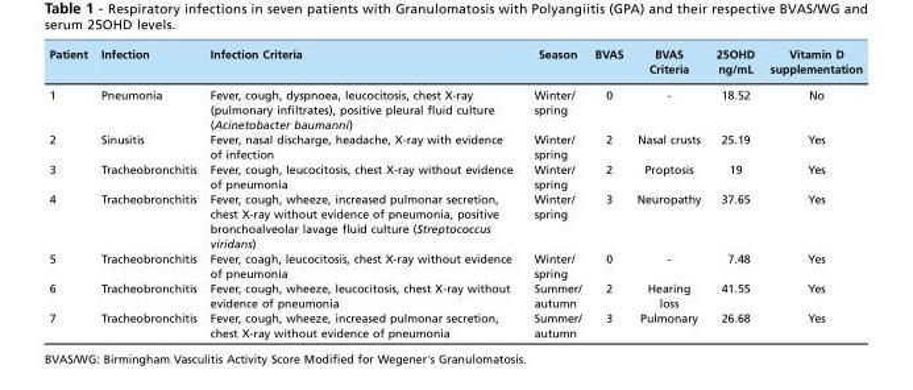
<table><thead><tr><td>Patient</td><td>Infection</td><td>Infection Criteria</td><td>Season</td><td>BVAS</td><td>BVAS Criteria</td><td>25OHD ng/mL</td><td>Vitamin D supplementation</td></tr></thead><tbody><tr><td>1</td><td>Pneumonia</td><td>Fever, cough, dyspnoea, leucocitosis, chest X-ray (pulmonary infiltrates), positive pleural fluid culture (Acinetobacter baumanni)</td><td>Winter/ spring</td><td>0</td><td>-</td><td>18.52</td><td>No</td></tr><tr><td>2</td><td>Sinusitis</td><td>Fever, nasal discharge, headache, X-ray with evidence of infection</td><td>Winter/ spring</td><td>2</td><td>Nasal crusts</td><td>25.19</td><td>Yes</td></tr><tr><td>3</td><td>Tracheobronchitis</td><td>Fever, cough, leucocitosis, chest X-ray without evidence of pneumonia</td><td>Winter/ spring</td><td>2</td><td>Proptosis</td><td>19</td><td>Yes</td></tr><tr><td>4</td><td>Tracheobronchitis</td><td>Fever, cough, wheeze, increased pulmonar secretion, chest X-ray without evidence of pneumonia, positive bronchoalveolar lavage fluid culture (Streptococcus viridans)</td><td>Winter/ spring</td><td>3</td><td>Neuropathy</td><td>37.65</td><td>Yes</td></tr><tr><td>5</td><td>Tracheobronchitis</td><td>Fever, coagh, leucocitosis, chest X-ray without evidence of pneumonia</td><td>Winter/ spring</td><td>0</td><td>-</td><td>7.48</td><td>Yes</td></tr><tr><td>6</td><td>Tracheobronchitis</td><td>Fever, cough, wheeze, leucocitosis, chest X-ray without evidence of pneumonia</td><td>Summer/ autumn</td><td>2</td><td>Hearing loss</td><td>41.55</td><td>Yes</td></tr><tr><td>7</td><td>Tracheobronchitis</td><td>Fever, cough, wheeze, increased pulmonar secretion, chest X-ray without evidence of pneumonia</td><td>Summer/ autumn</td><td>3</td><td>Pulmonary</td><td>26.68</td><td>Yes</td></tr></tbody></table>